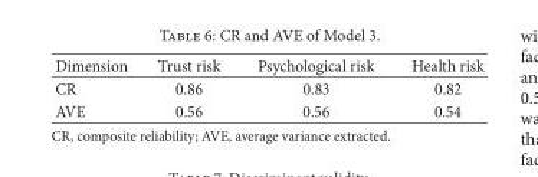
<table><thead><tr><td>Dimension</td><td>Trust risk</td><td>Psychological risk</td><td>Health risk</td></tr></thead><tbody><tr><td>CR</td><td>0.86</td><td>0.83</td><td>0.82</td></tr><tr><td>AVE</td><td>0.56</td><td>0.56</td><td>0.54</td></tr></tbody></table>